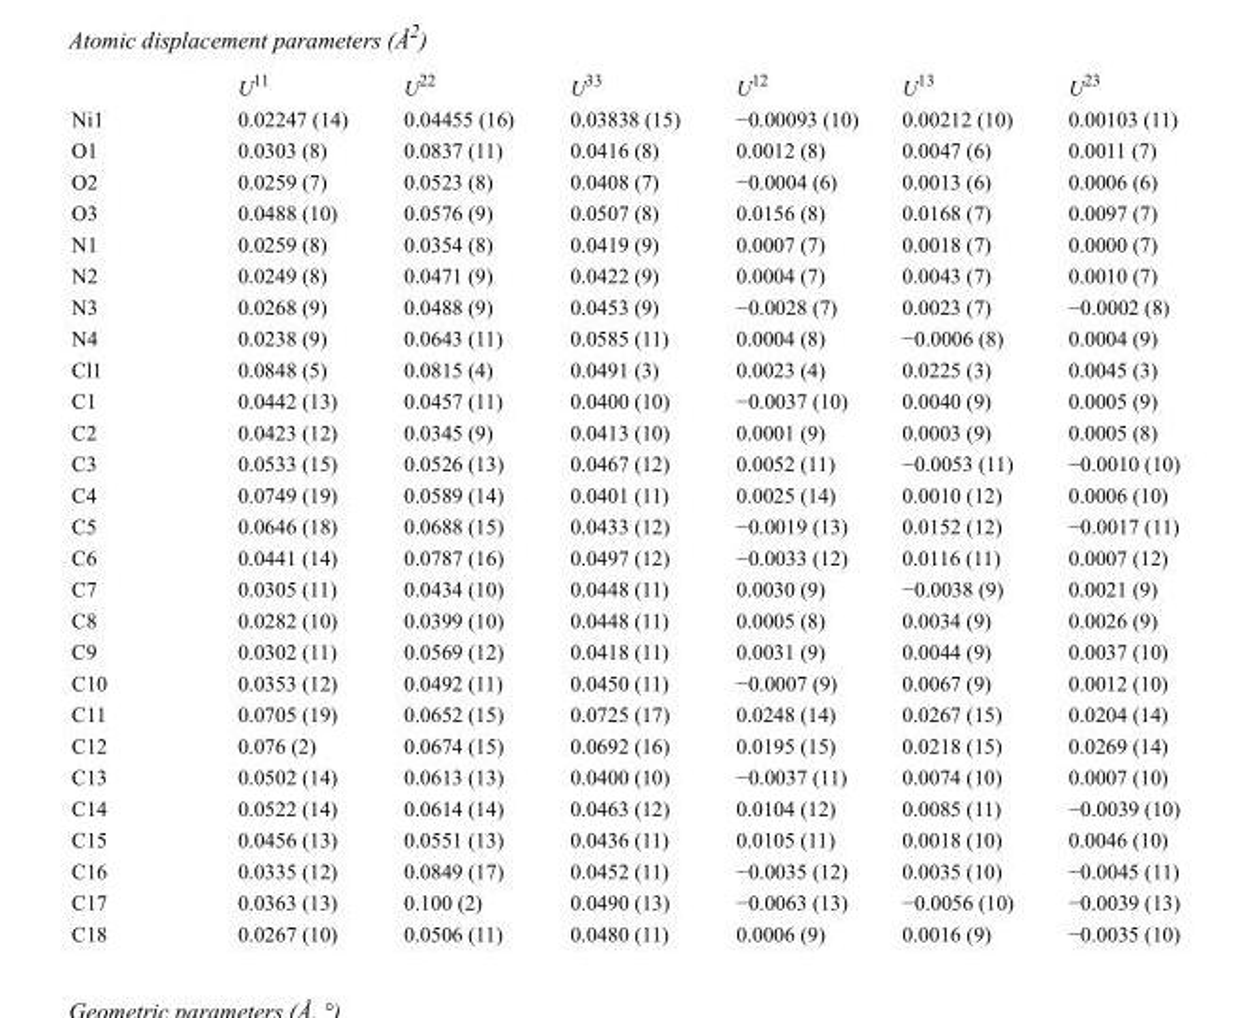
<table><thead><tr><td></td><td>U<sup>11</sup></td><td>U<sup>22</sup></td><td>U<sup>33</sup></td><td>U<sup>12</sup></td><td>U<sup>13</sup></td><td>U<sup>23</sup></td></tr></thead><tbody><tr><td>Ni1</td><td>0.02247 (14)</td><td>0.04455 (16)</td><td>0.03838 (15)</td><td>−0.00093 (10)</td><td>0.00212 (10)</td><td>0.00103 (11)</td></tr><tr><td>O1</td><td>0.0303 (8)</td><td>0.0837 (11)</td><td>0.0416 (8)</td><td>0.0012 (8)</td><td>0.0047 (6)</td><td>0.0011 (7)</td></tr><tr><td>O2</td><td>0.0259 (7)</td><td>0.0523 (8)</td><td>0.0408 (7)</td><td>−0.0004 (6)</td><td>0.0013 (6)</td><td>0.0006 (6)</td></tr><tr><td>O3</td><td>0.0488 (10)</td><td>0.0576 (9)</td><td>0.0507 (8)</td><td>0.0156 (8)</td><td>0.0168 (7)</td><td>0.0097 (7)</td></tr><tr><td>N1</td><td>0.0259 (8)</td><td>0.0354 (8)</td><td>0.0419 (9)</td><td>0.0007 (7)</td><td>0.0018 (7)</td><td>0.0000 (7)</td></tr><tr><td>N2</td><td>0.0249 (8)</td><td>0.0471 (9)</td><td>0.0422 (9)</td><td>0.0004 (7)</td><td>0.0043 (7)</td><td>0.0010 (7)</td></tr><tr><td>N3</td><td>0.0268 (9)</td><td>0.0488 (9)</td><td>0.0453 (9)</td><td>−0.0028 (7)</td><td>0.0023 (7)</td><td>−0.0002 (8)</td></tr><tr><td>N4</td><td>0.0238 (9)</td><td>0.0643 (11)</td><td>0.0585 (11)</td><td>0.0004 (8)</td><td>−0.0006 (8)</td><td>0.0004 (9)</td></tr><tr><td>Cl1</td><td>0.0848 (5)</td><td>0.0815 (4)</td><td>0.0491 (3)</td><td>0.0023 (4)</td><td>0.0225 (3)</td><td>0.0045 (3)</td></tr><tr><td>C1</td><td>0.0442 (13)</td><td>0.0457 (11)</td><td>0.0400 (10)</td><td>−0.0037 (10)</td><td>0.0040 (9)</td><td>0.0005 (9)</td></tr><tr><td>C2</td><td>0.0423 (12)</td><td>0.0345 (9)</td><td>0.0413 (10)</td><td>0.0001 (9)</td><td>0.0003 (9)</td><td>0.0005 (8)</td></tr><tr><td>C3</td><td>0.0533 (15)</td><td>0.0526 (13)</td><td>0.0467 (12)</td><td>0.0052 (11)</td><td>−0.0053 (11)</td><td>−0.0010 (10)</td></tr><tr><td>C4</td><td>0.0749 (19)</td><td>0.0589 (14)</td><td>0.0401 (11)</td><td>0.0025 (14)</td><td>0.0010 (12)</td><td>0.0006 (10)</td></tr><tr><td>C5</td><td>0.0646 (18)</td><td>0.0688 (15)</td><td>0.0433 (12)</td><td>−0.0019 (13)</td><td>0.0152 (12)</td><td>−0.0017 (11)</td></tr><tr><td>C6</td><td>0.0441 (14)</td><td>0.0787 (16)</td><td>0.0497 (12)</td><td>−0.0033 (12)</td><td>0.0116 (11)</td><td>0.0007 (12)</td></tr><tr><td>C7</td><td>0.0305 (11)</td><td>0.0434 (10)</td><td>0.0448 (11)</td><td>0.0030 (9)</td><td>−0.0038 (9)</td><td>0.0021 (9)</td></tr><tr><td>C8</td><td>0.0282 (10)</td><td>0.0399 (10)</td><td>0.0448 (11)</td><td>0.0005 (8)</td><td>0.0034 (9)</td><td>0.0026 (9)</td></tr><tr><td>C9</td><td>0.0302 (11)</td><td>0.0569 (12)</td><td>0.0418 (11)</td><td>0.0031 (9)</td><td>0.0044 (9)</td><td>0.0037 (10)</td></tr><tr><td>C10</td><td>0.0353 (12)</td><td>0.0492 (11)</td><td>0.0450 (11)</td><td>−0.0007 (9)</td><td>0.0067 (9)</td><td>0.0012 (10)</td></tr><tr><td>C11</td><td>0.0705 (19)</td><td>0.0652 (15)</td><td>0.0725 (17)</td><td>0.0248 (14)</td><td>0.0267 (15)</td><td>0.0204 (14)</td></tr><tr><td>C12</td><td>0.076 (2)</td><td>0.0674 (15)</td><td>0.0692 (16)</td><td>0.0195 (15)</td><td>0.0218 (15)</td><td>0.0269 (14)</td></tr><tr><td>C13</td><td>0.0502 (14)</td><td>0.0613 (13)</td><td>0.0400 (10)</td><td>−0.0037 (11)</td><td>0.0074 (10)</td><td>0.0007 (10)</td></tr><tr><td>C14</td><td>0.0522 (14)</td><td>0.0614 (14)</td><td>0.0463 (12)</td><td>0.0104 (12)</td><td>0.0085 (11)</td><td>−0.0039 (10)</td></tr><tr><td>C15</td><td>0.0456 (13)</td><td>0.0551 (13)</td><td>0.0436 (11)</td><td>0.0105 (11)</td><td>0.0018 (10)</td><td>0.0046 (10)</td></tr><tr><td>C16</td><td>0.0335 (12)</td><td>0.0849 (17)</td><td>0.0452 (11)</td><td>−0.0035 (12)</td><td>0.0035 (10)</td><td>−0.0045 (11)</td></tr><tr><td>C17</td><td>0.0363 (13)</td><td>0.100 (2)</td><td>0.0490 (13)</td><td>−0.0063 (13)</td><td>−0.0056 (10)</td><td>−0.0039 (13)</td></tr><tr><td>C18</td><td>0.0267 (10)</td><td>0.0506 (11)</td><td>0.0480 (11)</td><td>0.0006 (9)</td><td>0.0016 (9)</td><td>−0.0035 (10)</td></tr></tbody></table>